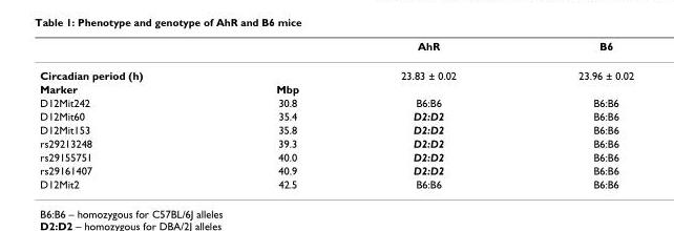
<table><thead><tr><td></td><td></td><td>AhR</td><td>B6</td></tr></thead><tbody><tr><td colspan="2">Circadian period (h)</td><td>23.83 ± 0.02</td><td>23.96 ± 0.02</td></tr><tr><td>Marker</td><td>Mbp</td><td></td><td></td></tr><tr><td>D12Mit242</td><td>30.8</td><td>B6:B6</td><td>B6:B6</td></tr><tr><td>D12Mit60</td><td>35.4</td><td>D2:D2</td><td>B6:B6</td></tr><tr><td>D12Mit153</td><td>35.8</td><td>D2:D2</td><td>B6:B6</td></tr><tr><td>rs29213248</td><td>39.3</td><td>D2:D2</td><td>B6:B6</td></tr><tr><td>rs29155751</td><td>40.0</td><td>D2:D2</td><td>B6:B6</td></tr><tr><td>rs29161407</td><td>40.9</td><td>D2:D2</td><td>B6:B6</td></tr><tr><td>D12Mit2</td><td>42.5</td><td>B6:B6</td><td>B6:B6</td></tr></tbody></table>